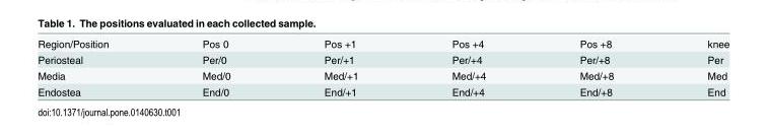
<table><tbody><tr><td>Region/Position</td><td>Pos 0</td><td>Pos +1</td><td>Pos +4</td><td>Pos +8</td><td>knee</td></tr><tr><td>Periosteal</td><td>Per/0</td><td>Per/+1</td><td>Per/+4</td><td>Per/+8</td><td>Per</td></tr><tr><td>Media</td><td>Med/0</td><td>Med/+1</td><td>Med/+4</td><td>Med/+8</td><td>Med</td></tr><tr><td>Endostea</td><td>End/0</td><td>End/+1</td><td>End/+4</td><td>End/+8</td><td>End</td></tr></tbody></table>